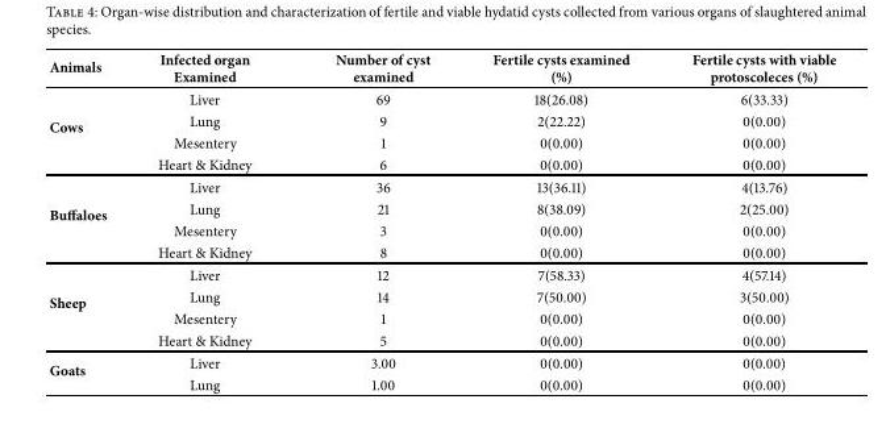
<table><thead><tr><td>Animals</td><td>Infected organ Examined</td><td>Number of cyst examined</td><td>Fertile cysts examined (%)</td><td>Fertile cysts with viable protoscoleces (%)</td></tr></thead><tbody><tr><td rowspan="4">Cows</td><td>Liver</td><td>69</td><td>18(26.08)</td><td>6(33.33)</td></tr><tr><td>Lung</td><td>9</td><td>2(22.22)</td><td>0(0.00)</td></tr><tr><td>Mesentery</td><td>1</td><td>0(0.00)</td><td>0(0.00)</td></tr><tr><td>Heart &amp; Kidney</td><td>6</td><td>0(0.00)</td><td>0(0.00)</td></tr><tr><td rowspan="4">Buffaloes</td><td>Liver</td><td>36</td><td>13(36.11)</td><td>4(13.76)</td></tr><tr><td>Lung</td><td>21</td><td>8(38.09)</td><td>2(25.00)</td></tr><tr><td>Mesentery</td><td>3</td><td>0(0.00)</td><td>0(0.00)</td></tr><tr><td>Heart &amp; Kidney</td><td>8</td><td>0(0.00)</td><td>0(0.00)</td></tr><tr><td rowspan="4">Sheep</td><td>Liver</td><td>12</td><td>7(58.33)</td><td>4(57.14)</td></tr><tr><td>Lung</td><td>14</td><td>7(50.00)</td><td>3(50.00)</td></tr><tr><td>Mesentery</td><td>1</td><td>0(0.00)</td><td>0(0.00)</td></tr><tr><td>Heart &amp; Kidney</td><td>5</td><td>0(0.00)</td><td>0(0.00)</td></tr><tr><td rowspan="2">Goats</td><td>Liver</td><td>3.00</td><td>0(0.00)</td><td>0(0.00)</td></tr><tr><td>Lung</td><td>1.00</td><td>0(0.00)</td><td>0(0.00)</td></tr></tbody></table>